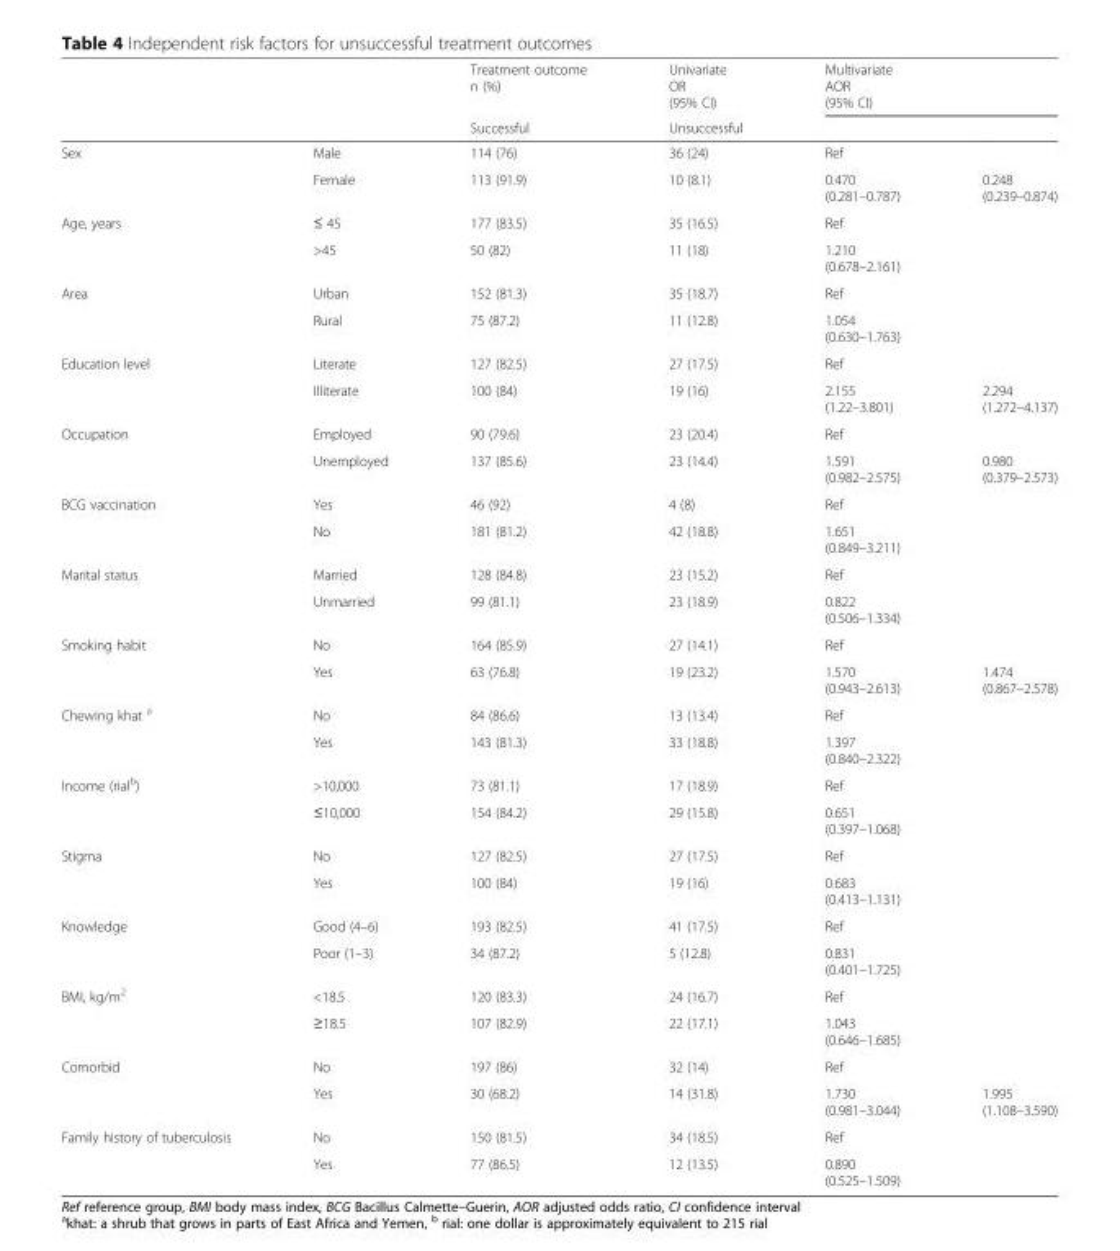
<table><thead><tr><td rowspan="2"></td><td rowspan="2"></td><td rowspan="2">Treatment outcome n (%) Successful</td><td rowspan="2">Univariate OR (95% CI) Unsuccessful</td><td colspan="2">Multivariate AOR (95% CI)</td></tr><tr><td></td><td></td></tr></thead><tbody><tr><td rowspan="2">Sex</td><td>Male</td><td>114 (76)</td><td>36 (24)</td><td>Ref</td><td></td></tr><tr><td>Female</td><td>113 (91.9)</td><td>10 (8.1)</td><td>0.470 (0.281–0.787)</td><td>0.248 (0.239–0.874)</td></tr><tr><td rowspan="2">Age, years</td><td>≤ 45</td><td>177 (83.5)</td><td>35 (16.5)</td><td>Ref</td><td></td></tr><tr><td>&gt;45</td><td>50 (82)</td><td>11 (18)</td><td>1.210 (0.678–2.161)</td><td></td></tr><tr><td rowspan="2">Area</td><td>Urban</td><td>152 (81.3)</td><td>35 (18.7)</td><td>Ref</td><td></td></tr><tr><td>Rural</td><td>75 (87.2)</td><td>11 (12.8)</td><td>1.054 (0.630–1.763)</td><td></td></tr><tr><td rowspan="2">Education level</td><td>Literate</td><td>127 (82.5)</td><td>27 (17.5)</td><td>Ref</td><td></td></tr><tr><td>Illiterate</td><td>100 (84)</td><td>19 (16)</td><td>2.155 (1.22–3.801)</td><td>2.294 (1.272–4.137)</td></tr><tr><td rowspan="2">Occupation</td><td>Employed</td><td>90 (79.6)</td><td>23 (20.4)</td><td>Ref</td><td></td></tr><tr><td>Unemployed</td><td>137 (85.6)</td><td>23 (14.4)</td><td>1.591 (0.982–2.575)</td><td>0.980 (0.379–2.573)</td></tr><tr><td rowspan="2">BCG vaccination</td><td>Yes</td><td>46 (92)</td><td>4 (8)</td><td>Ref</td><td></td></tr><tr><td>No</td><td>181 (81.2)</td><td>42 (18.8)</td><td>1.651 (0.849–3.211)</td><td></td></tr><tr><td rowspan="2">Marital status</td><td>Married</td><td>128 (84.8)</td><td>23 (15.2)</td><td>Ref</td><td></td></tr><tr><td>Unmarried</td><td>99 (81.1)</td><td>23 (18.9)</td><td>0.822 (0.506–1.334)</td><td></td></tr><tr><td rowspan="2">Smoking habit</td><td>No</td><td>164 (85.9)</td><td>27 (14.1)</td><td>Ref</td><td></td></tr><tr><td>Yes</td><td>63 (76.8)</td><td>19 (23.2)</td><td>1.570 (0.943–2.613)</td><td>1.474 (0.867–2.578)</td></tr><tr><td rowspan="2">Chewing khat <sup>a</sup></td><td>No</td><td>84 (86.6)</td><td>13 (13.4)</td><td>Ref</td><td></td></tr><tr><td>Yes</td><td>143 (81.3)</td><td>33 (18.8)</td><td>1.397 (0.840–2.322)</td><td></td></tr><tr><td rowspan="2">Income (rial<sup>b</sup>)</td><td>&gt;10,000</td><td>73 (81.1)</td><td>17 (18.9)</td><td>Ref</td><td></td></tr><tr><td>≤10,000</td><td>154 (84.2)</td><td>29 (15.8)</td><td>0.651 (0.397–1.068)</td><td></td></tr><tr><td rowspan="2">Stigma</td><td>No</td><td>127 (82.5)</td><td>27 (17.5)</td><td>Ref</td><td></td></tr><tr><td>Yes</td><td>100 (84)</td><td>19 (16)</td><td>0.683 (0.413–1.131)</td><td></td></tr><tr><td rowspan="2">Knowledge</td><td>Good (4–6)</td><td>193 (82.5)</td><td>41 (17.5)</td><td>Ref</td><td></td></tr><tr><td>Poor (1–3)</td><td>34 (87.2)</td><td>5 (12.8)</td><td>0.831 (0.401–1.725)</td><td></td></tr><tr><td rowspan="2">BMI, kg/m<sup>2</sup></td><td>&lt;18.5</td><td>120 (83.3)</td><td>24 (16.7)</td><td>Ref</td><td></td></tr><tr><td>≥18.5</td><td>107 (82.9)</td><td>22 (17.1)</td><td>1.043 (0.646–1.685)</td><td></td></tr><tr><td rowspan="2">Comorbid</td><td>No</td><td>197 (86)</td><td>32 (14)</td><td>Ref</td><td></td></tr><tr><td>Yes</td><td>30 (68.2)</td><td>14 (31.8)</td><td>1.730 (0.981–3.044)</td><td>1.995 (1.108–3.590)</td></tr><tr><td rowspan="2">Family history of tuberculosis</td><td>No</td><td>150 (81.5)</td><td>34 (18.5)</td><td>Ref</td><td></td></tr><tr><td>Yes</td><td>77 (86.5)</td><td>12 (13.5)</td><td>0.890 (0.525–1.509)</td><td></td></tr></tbody></table>